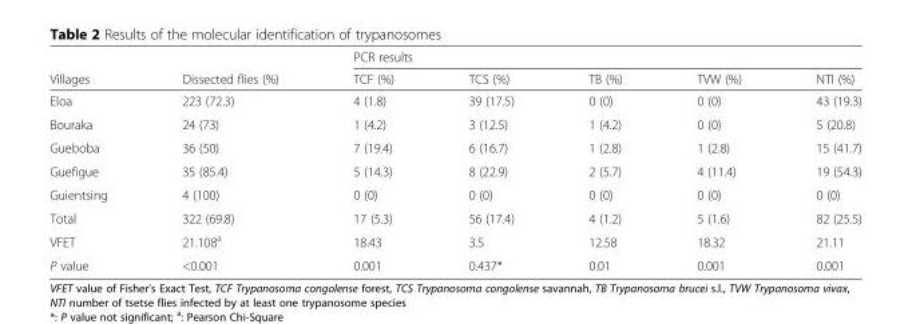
<table><thead><tr><td rowspan="2">Villages</td><td rowspan="2">Dissected flies (%)</td><td colspan="5">PCR results</td></tr><tr><td>TCF (%)</td><td>TCS (%)</td><td>TB (%)</td><td>TVW (%)</td><td>NTI (%)</td></tr></thead><tbody><tr><td>Eloa</td><td>223 (72.3)</td><td>4 (1.8)</td><td>39 (17.5)</td><td>0 (0)</td><td>0 (0)</td><td>43 (19.3)</td></tr><tr><td>Bouraka</td><td>24 (73)</td><td>1 (4.2)</td><td>3 (12.5)</td><td>1 (4.2)</td><td>0 (0)</td><td>5 (20.8)</td></tr><tr><td>Gueboba</td><td>36 (50)</td><td>7 (19.4)</td><td>6 (16.7)</td><td>1 (2.8)</td><td>1 (2.8)</td><td>15 (41.7)</td></tr><tr><td>Guefigue</td><td>35 (85.4)</td><td>5 (14.3)</td><td>8 (22.9)</td><td>2 (5.7)</td><td>4 (11.4)</td><td>19 (54.3)</td></tr><tr><td>Guientsing</td><td>4 (100)</td><td>0 (0)</td><td>0 (0)</td><td>0 (0)</td><td>0 (0)</td><td>0 (0)</td></tr><tr><td>Total</td><td>322 (69.8)</td><td>17 (5.3)</td><td>56 (17.4)</td><td>4 (1.2)</td><td>5 (1.6)</td><td>82 (25.5)</td></tr><tr><td>VFET</td><td>21.108<sup>a</sup></td><td>18.43</td><td>3.5</td><td>12.58</td><td>18.32</td><td>21.11</td></tr><tr><td>P value</td><td>&lt;0.001</td><td>0.001</td><td>0.437*</td><td>0.01</td><td>0.001</td><td>0.001</td></tr></tbody></table>